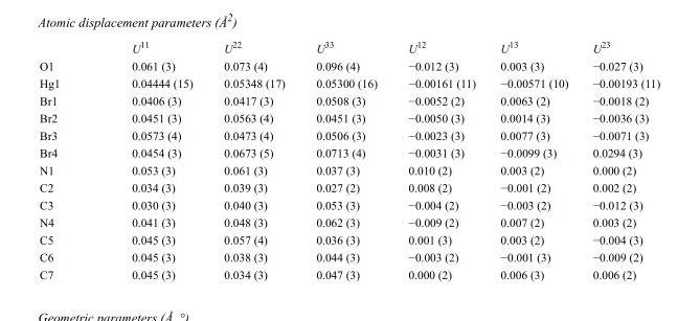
<table><thead><tr><td></td><td>U<sup>11</sup></td><td>U<sup>22</sup></td><td>U<sup>33</sup></td><td>U<sup>12</sup></td><td>U<sup>13</sup></td><td>U<sup>23</sup></td></tr></thead><tbody><tr><td>O1</td><td>0.061 (3)</td><td>0.073 (4)</td><td>0.096 (4)</td><td>−0.012 (3)</td><td>0.003 (3)</td><td>−0.027 (3)</td></tr><tr><td>Hg1</td><td>0.04444 (15)</td><td>0.05348 (17)</td><td>0.05300 (16)</td><td>−0.00161 (11)</td><td>−0.00571 (10)</td><td>−0.00193 (11)</td></tr><tr><td>Br1</td><td>0.0406 (3)</td><td>0.0417 (3)</td><td>0.0508 (3)</td><td>−0.0052 (2)</td><td>0.0063 (2)</td><td>−0.0018 (2)</td></tr><tr><td>Br2</td><td>0.0451 (3)</td><td>0.0563 (4)</td><td>0.0451 (3)</td><td>−0.0050 (3)</td><td>0.0014 (3)</td><td>−0.0036 (3)</td></tr><tr><td>Br3</td><td>0.0573 (4)</td><td>0.0473 (4)</td><td>0.0506 (3)</td><td>−0.0023 (3)</td><td>0.0077 (3)</td><td>−0.0071 (3)</td></tr><tr><td>Br4</td><td>0.0454 (3)</td><td>0.0673 (5)</td><td>0.0713 (4)</td><td>−0.0031 (3)</td><td>−0.0099 (3)</td><td>0.0294 (3)</td></tr><tr><td>N1</td><td>0.053 (3)</td><td>0.061 (3)</td><td>0.037 (3)</td><td>0.010 (2)</td><td>0.003 (2)</td><td>0.000 (2)</td></tr><tr><td>C2</td><td>0.034 (3)</td><td>0.039 (3)</td><td>0.027 (2)</td><td>0.008 (2)</td><td>−0.001 (2)</td><td>0.002 (2)</td></tr><tr><td>C3</td><td>0.030 (3)</td><td>0.040 (3)</td><td>0.053 (3)</td><td>−0.004 (2)</td><td>−0.003 (2)</td><td>−0.012 (3)</td></tr><tr><td>N4</td><td>0.041 (3)</td><td>0.048 (3)</td><td>0.062 (3)</td><td>−0.009 (2)</td><td>0.007 (2)</td><td>0.003 (2)</td></tr><tr><td>C5</td><td>0.045 (3)</td><td>0.057 (4)</td><td>0.036 (3)</td><td>0.001 (3)</td><td>0.003 (2)</td><td>−0.004 (3)</td></tr><tr><td>C6</td><td>0.045 (3)</td><td>0.038 (3)</td><td>0.044 (3)</td><td>−0.003 (2)</td><td>−0.001 (3)</td><td>−0.009 (2)</td></tr><tr><td>C7</td><td>0.045 (3)</td><td>0.034 (3)</td><td>0.047 (3)</td><td>0.000 (2)</td><td>0.006 (3)</td><td>0.006 (2)</td></tr></tbody></table>